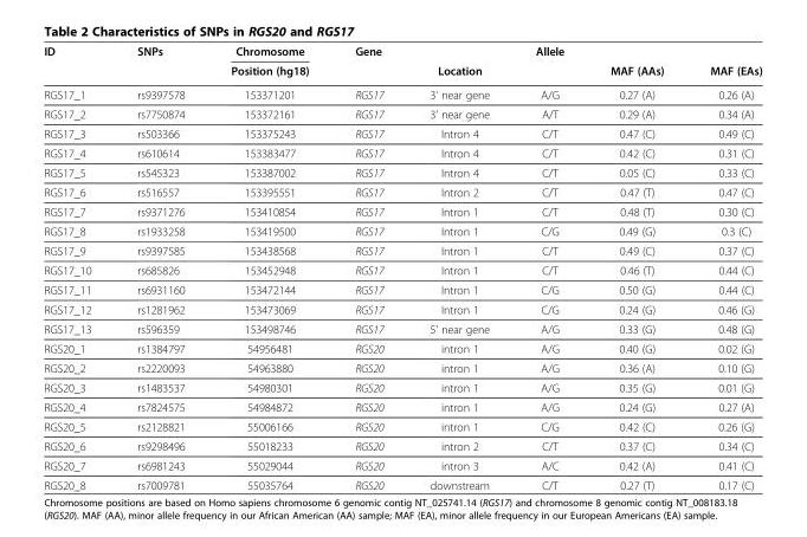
<table><thead><tr><td rowspan="2">ID</td><td rowspan="2">SNPs</td><td rowspan="2">Chromosome Position (hg18)</td><td rowspan="2">Gene</td><td rowspan="2">Location</td><td rowspan="2">Allele</td><td rowspan="2">MAF (AAs)</td><td rowspan="2">MAF (EAs)</td></tr><tr></tr></thead><tbody><tr><td>RGS17_1</td><td>rs9397578</td><td>153371201</td><td>RGS17</td><td>3&#x27; near gene</td><td>A/G</td><td>0.27 (A)</td><td>0.26 (A)</td></tr><tr><td>RGS17_2</td><td>rs7750874</td><td>153372161</td><td>RGS17</td><td>3&#x27; near gene</td><td>A/T</td><td>0.29 (A)</td><td>0.34 (A)</td></tr><tr><td>RGS17_3</td><td>rs503366</td><td>153375243</td><td>RGS17</td><td>Intron 4</td><td>C/T</td><td>0.47 (C)</td><td>0.49 (C)</td></tr><tr><td>RGS17_4</td><td>rs610614</td><td>153383477</td><td>RGS17</td><td>Intron 4</td><td>C/T</td><td>0.42 (C)</td><td>0.31 (C)</td></tr><tr><td>RGS17_5</td><td>rs545323</td><td>153387002</td><td>RGS17</td><td>Intron 4</td><td>C/T</td><td>0.05 (C)</td><td>0.33 (C)</td></tr><tr><td>RGS17_6</td><td>rs516557</td><td>153395551</td><td>RGS17</td><td>Intron 2</td><td>C/T</td><td>0.47 (T)</td><td>0.47 (C)</td></tr><tr><td>RGS17_7</td><td>rs9371276</td><td>153410854</td><td>RGS17</td><td>Intron 1</td><td>C/T</td><td>0.48 (T)</td><td>0.30 (C)</td></tr><tr><td>RGS17_8</td><td>rs1933258</td><td>153419500</td><td>RGS17</td><td>Intron 1</td><td>C/G</td><td>0.49 (G)</td><td>0.3 (C)</td></tr><tr><td>RGS17_9</td><td>rs9397585</td><td>153438568</td><td>RGS17</td><td>Intron 1</td><td>C/T</td><td>0.49 (C)</td><td>0.37 (C)</td></tr><tr><td>RGS17_10</td><td>rs685826</td><td>153452948</td><td>RGS17</td><td>Intron 1</td><td>C/T</td><td>0.46 (T)</td><td>0.44 (C)</td></tr><tr><td>RGS17_11</td><td>rs6931160</td><td>153472144</td><td>RGS17</td><td>Intron 1</td><td>C/G</td><td>0.50 (G)</td><td>0.44 (C)</td></tr><tr><td>RGS17_12</td><td>rs1281962</td><td>153473069</td><td>RGS17</td><td>Intron 1</td><td>C/G</td><td>0.24 (G)</td><td>0.46 (G)</td></tr><tr><td>RGS17_13</td><td>rs596359</td><td>153498746</td><td>RGS17</td><td>5&#x27; near gene</td><td>A/G</td><td>0.33 (G)</td><td>0.48 (G)</td></tr><tr><td>RGS20_1</td><td>rs1384797</td><td>54956481</td><td>RGS20</td><td>intron 1</td><td>A/G</td><td>0.40 (G)</td><td>0.02 (G)</td></tr><tr><td>RGS20_2</td><td>rs2220093</td><td>54963880</td><td>RGS20</td><td>intron 1</td><td>A/G</td><td>0.36 (A)</td><td>0.10 (G)</td></tr><tr><td>RGS20_3</td><td>rs1483537</td><td>54980301</td><td>RGS20</td><td>intron 1</td><td>A/G</td><td>0.35 (G)</td><td>0.01 (G)</td></tr><tr><td>RGS20_4</td><td>rs7824575</td><td>54984872</td><td>RGS20</td><td>intron 1</td><td>A/G</td><td>0.24 (G)</td><td>0.27 (A)</td></tr><tr><td>RGS20_5</td><td>rs2128821</td><td>55006166</td><td>RGS20</td><td>intron 1</td><td>C/G</td><td>0.42 (C)</td><td>0.26 (G)</td></tr><tr><td>RGS20_6</td><td>rs9298496</td><td>55018233</td><td>RGS20</td><td>intron 2</td><td>C/T</td><td>0.37 (C)</td><td>0.34 (C)</td></tr><tr><td>RGS20_7</td><td>rs6981243</td><td>55029044</td><td>RGS20</td><td>intron 3</td><td>A/C</td><td>0.42 (A)</td><td>0.41 (C)</td></tr><tr><td>RGS20_8</td><td>rs7009781</td><td>55035764</td><td>RGS20</td><td>downstream</td><td>C/T</td><td>0.27 (T)</td><td>0.17 (C)</td></tr></tbody></table>